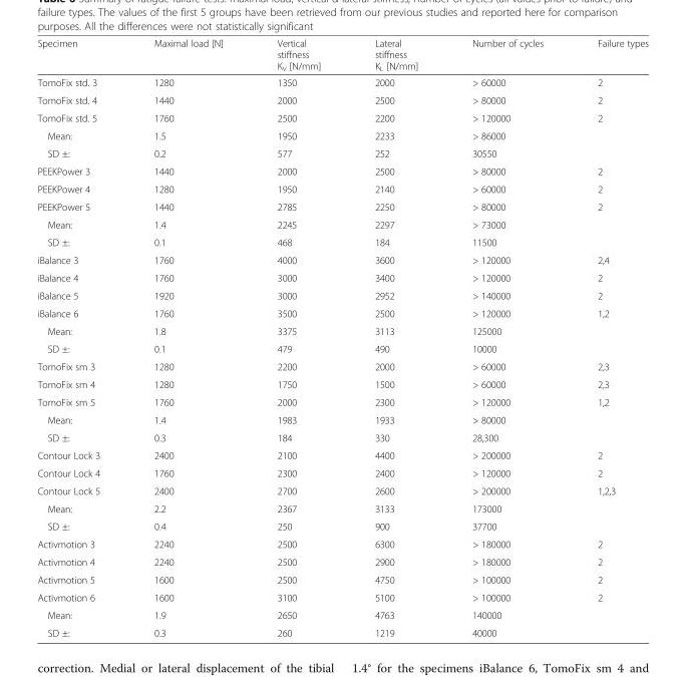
<table><thead><tr><td>Specimen</td><td>Maximal load [N]</td><td>Vertical stiffness K<sub>V</sub> [N/mm]</td><td>Lateral stiffness K<sub>L</sub> [N/mm]</td><td>Number of cycles</td><td>Failure types</td></tr></thead><tbody><tr><td>TomoFix std. 3</td><td>1280</td><td>1350</td><td>2000</td><td>&gt; 60000</td><td>2</td></tr><tr><td>TomoFix std. 4</td><td>1440</td><td>2000</td><td>2500</td><td>&gt; 80000</td><td>2</td></tr><tr><td>TomoFix std. 5</td><td>1760</td><td>2500</td><td>2200</td><td>&gt; 120000</td><td>2</td></tr><tr><td>Mean:</td><td>1.5</td><td>1950</td><td>2233</td><td>&gt; 86000</td><td></td></tr><tr><td>SD ±:</td><td>0.2</td><td>577</td><td>252</td><td>30550</td><td></td></tr><tr><td>PEEKPower 3</td><td>1440</td><td>2000</td><td>2500</td><td>&gt; 80000</td><td>2</td></tr><tr><td>PEEKPower 4</td><td>1280</td><td>1950</td><td>2140</td><td>&gt; 60000</td><td>2</td></tr><tr><td>PEEKPower 5</td><td>1440</td><td>2785</td><td>2250</td><td>&gt; 80000</td><td>2</td></tr><tr><td>Mean:</td><td>1.4</td><td>2245</td><td>2297</td><td>&gt; 73000</td><td></td></tr><tr><td>SD ±:</td><td>0.1</td><td>468</td><td>184</td><td>11500</td><td></td></tr><tr><td>iBalance 3</td><td>1760</td><td>4000</td><td>3600</td><td>&gt; 120000</td><td>2,4</td></tr><tr><td>iBalance 4</td><td>1760</td><td>3000</td><td>3400</td><td>&gt; 120000</td><td>2</td></tr><tr><td>iBalance 5</td><td>1920</td><td>3000</td><td>2952</td><td>&gt; 140000</td><td>2</td></tr><tr><td>iBalance 6</td><td>1760</td><td>3500</td><td>2500</td><td>&gt; 120000</td><td>1,2</td></tr><tr><td>Mean:</td><td>1.8</td><td>3375</td><td>3113</td><td>125000</td><td></td></tr><tr><td>SD ±:</td><td>0.1</td><td>479</td><td>490</td><td>10000</td><td></td></tr><tr><td>TomoFix sm 3</td><td>1280</td><td>2200</td><td>2000</td><td>&gt; 60000</td><td>2,3</td></tr><tr><td>TomoFix sm 4</td><td>1280</td><td>1750</td><td>1500</td><td>&gt; 60000</td><td>2,3</td></tr><tr><td>TomoFix sm 5</td><td>1760</td><td>2000</td><td>2300</td><td>&gt; 120000</td><td>1,2</td></tr><tr><td>Mean:</td><td>1.4</td><td>1983</td><td>1933</td><td>&gt; 80000</td><td></td></tr><tr><td>SD ±:</td><td>0.3</td><td>184</td><td>330</td><td>28,300</td><td></td></tr><tr><td>Contour Lock 3</td><td>2400</td><td>2100</td><td>4400</td><td>&gt; 200000</td><td>2</td></tr><tr><td>Contour Lock 4</td><td>1760</td><td>2300</td><td>2400</td><td>&gt; 120000</td><td>2</td></tr><tr><td>Contour Lock 5</td><td>2400</td><td>2700</td><td>2600</td><td>&gt; 200000</td><td>1,2,3</td></tr><tr><td>Mean:</td><td>2.2</td><td>2367</td><td>3133</td><td>173000</td><td></td></tr><tr><td>SD ±:</td><td>0.4</td><td>250</td><td>900</td><td>37700</td><td></td></tr><tr><td>Activmotion 3</td><td>2240</td><td>2500</td><td>6300</td><td>&gt; 180000</td><td>2</td></tr><tr><td>Activmotion 4</td><td>2240</td><td>2500</td><td>2900</td><td>&gt; 180000</td><td>2</td></tr><tr><td>Activmotion 5</td><td>1600</td><td>2500</td><td>4750</td><td>&gt; 100000</td><td>2</td></tr><tr><td>Activmotion 6</td><td>1600</td><td>3100</td><td>5100</td><td>&gt; 100000</td><td>2</td></tr><tr><td>Mean:</td><td>1.9</td><td>2650</td><td>4763</td><td>140000</td><td></td></tr><tr><td>SD ±:</td><td>0.3</td><td>260</td><td>1219</td><td>40000</td><td></td></tr></tbody></table>